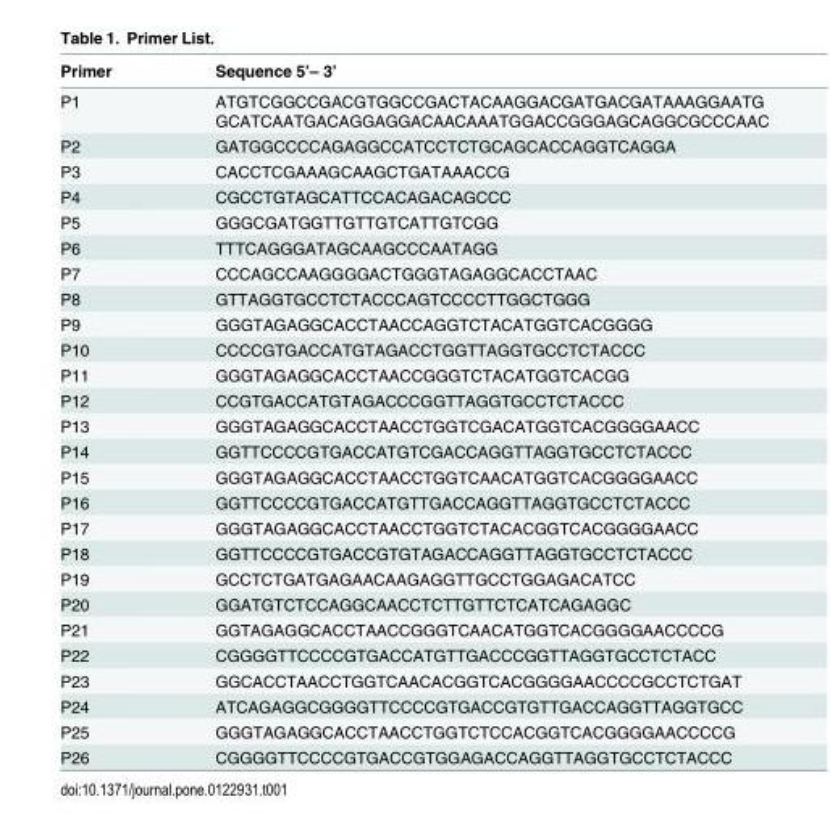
<table><thead><tr><td>Primer</td><td>Sequence 5’– 3’</td></tr></thead><tbody><tr><td>P1</td><td>ATGTCGGCCGACGTGGCCGACTACAAGGACGATGACGATAAAGGAATG GCATCAATGACAGGAGGACAACAAATGGACCGGGAGCAGGCGCCCAAC</td></tr><tr><td>P2</td><td>GATGGCCCCAGAGGCCATCCTCTGCAGCACCAGGTCAGGA</td></tr><tr><td>P3</td><td>CACCTCGAAAGCAAGCTGATAAACCG</td></tr><tr><td>P4</td><td>CGCCTGTAGCATTCCACAGACAGCCC</td></tr><tr><td>P5</td><td>GGGCGATGGTTGTTGTCATTGTCGG</td></tr><tr><td>P6</td><td>TTTCAGGGATAGCAAGCCCAATAGG</td></tr><tr><td>P7</td><td>CCCAGCCAAGGGGACTGGGTAGAGGCACCTAAC</td></tr><tr><td>P8</td><td>GTTAGGTGCCTCTACCCAGTCCCCTTGGCTGGG</td></tr><tr><td>P9</td><td>GGGTAGAGGCACCTAACCAGGTCTACATGGTCACGGGG</td></tr><tr><td>P10</td><td>CCCCGTGACCATGTAGACCTGGTTAGGTGCCTCTACCC</td></tr><tr><td>P11</td><td>GGGTAGAGGCACCTAACCGGGTCTACATGGTCACGG</td></tr><tr><td>P12</td><td>CCGTGACCATGTAGACCCGGTTAGGTGCCTCTACCC</td></tr><tr><td>P13</td><td>GGGTAGAGGCACCTAACCTGGTCGACATGGTCACGGGGAACC</td></tr><tr><td>P14</td><td>GGTTCCCCGTGACCATGTCGACCAGGTTAGGTGCCTCTACCC</td></tr><tr><td>P15</td><td>GGGTAGAGGCACCTAACCTGGTCAACATGGTCACGGGGAACC</td></tr><tr><td>P16</td><td>GGTTCCCCGTGACCATGTTGACCAGGTTAGGTGCCTCTACCC</td></tr><tr><td>P17</td><td>GGGTAGAGGCACCTAACCTGGTCTACACGGTCACGGGGAACC</td></tr><tr><td>P18</td><td>GGTTCCCCGTGACCGTGTAGACCAGGTTAGGTGCCTCTACCC</td></tr><tr><td>P19</td><td>GCCTCTGATGAGAACAAGAGGTTGCCTGGAGACATCC</td></tr><tr><td>P20</td><td>GGATGTCTCCAGGCAACCTCTTGTTCTCATCAGAGGC</td></tr><tr><td>P21</td><td>GGTAGAGGCACCTAACCGGGTCAACATGGTCACGGGGAACCCCG</td></tr><tr><td>P22</td><td>CGGGGTTCCCCGTGACCATGTTGACCCGGTTAGGTGCCTCTACC</td></tr><tr><td>P23</td><td>GGCACCTAACCTGGTCAACACGGTCACGGGGAACCCCGCCTCTGAT</td></tr><tr><td>P24</td><td>ATCAGAGGCGGGGTTCCCCGTGACCGTGTTGACCAGGTTAGGTGCC</td></tr><tr><td>P25</td><td>GGGTAGAGGCACCTAACCTGGTCTCCACGGTCACGGGGAACCCCG</td></tr><tr><td>P26</td><td>CGGGGTTCCCCGTGACCGTGGAGACCAGGTTAGGTGCCTCTACCC</td></tr></tbody></table>